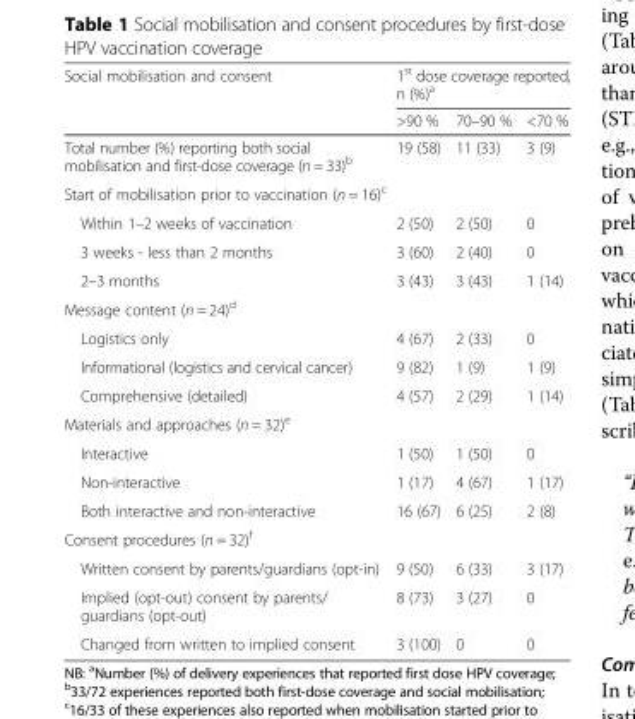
<table><thead><tr><td rowspan="2">Social mobilisation and consent</td><td colspan="3">1<sup>st</sup> dose coverage reported, n (%)<sup>a</sup></td></tr><tr><td>&gt;90 %</td><td>70–90 %</td><td>&lt;70 %</td></tr></thead><tbody><tr><td>Total number (%) reporting both social mobilisation and first-dose coverage (n = 33)<sup>b</sup></td><td>19 (58)</td><td>11 (33)</td><td>3 (9)</td></tr><tr><td colspan="4">Start of mobilisation prior to vaccination (n = 16)<sup>c</sup></td></tr><tr><td>Within 1–2 weeks of vaccination</td><td>2 (50)</td><td>2 (50)</td><td>0</td></tr><tr><td>3 weeks - less than 2 months</td><td>3 (60)</td><td>2 (40)</td><td>0</td></tr><tr><td>2–3 months</td><td>3 (43)</td><td>3 (43)</td><td>1 (14)</td></tr><tr><td colspan="4">Message content (n = 24)<sup>d</sup></td></tr><tr><td>Logistics only</td><td>4 (67)</td><td>2 (33)</td><td>0</td></tr><tr><td>Informational (logistics and cervical cancer)</td><td>9 (82)</td><td>1 (9)</td><td>1 (9)</td></tr><tr><td>Comprehensive (detailed)</td><td>4 (57)</td><td>2 (29)</td><td>1 (14)</td></tr><tr><td colspan="4">Materials and approaches (n = 32)<sup>e</sup></td></tr><tr><td>Interactive</td><td>1 (50)</td><td>1 (50)</td><td>0</td></tr><tr><td>Non-interactive</td><td>1 (17)</td><td>4 (67)</td><td>1 (17)</td></tr><tr><td>Both interactive and non-interactive</td><td>16 (67)</td><td>6 (25)</td><td>2 (8)</td></tr><tr><td colspan="4">Consent procedures (n = 32)<sup>f</sup></td></tr><tr><td>Written consent by parents/guardians (opt-in)</td><td>9 (50)</td><td>6 (33)</td><td>3 (17)</td></tr><tr><td>Implied (opt-out) consent by parents/ guardians (opt-out)</td><td>8 (73)</td><td>3 (27)</td><td>0</td></tr><tr><td>Changed from written to implied consent</td><td>3 (100)</td><td>0</td><td>0</td></tr></tbody></table>